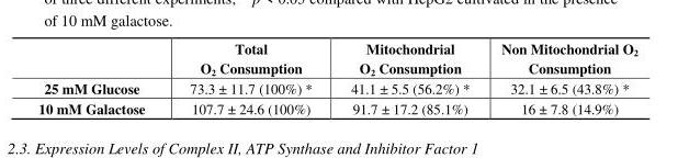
<table><thead><tr><td></td><td>Total O<sub>2</sub> Consumption</td><td>Mitochondrial O<sub>2</sub> Consumption</td><td>Non Mitochondrial O<sub>2</sub> Consumption</td></tr></thead><tbody><tr><td>25 mM Glucose</td><td>73.3 ± 11.7 (100%) *</td><td>41.1 ± 5.5 (56.2%) *</td><td>32.1 ± 6.5 (43.8%) *</td></tr><tr><td>10 mM Galactose</td><td>107.7 ± 24.6 (100%)</td><td>91.7 ± 17.2 (85.1%)</td><td>16 ± 7.8 (14.9%)</td></tr></tbody></table>